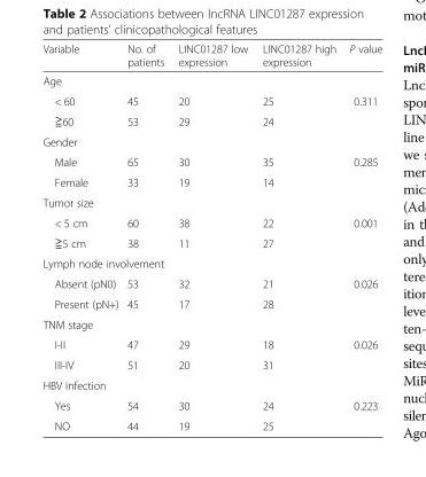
<table><thead><tr><td>Variable</td><td>No. of patients</td><td>LINC01287 low expression</td><td>LINC01287 high expression</td><td>P value</td></tr></thead><tbody><tr><td colspan="5">Age</td></tr><tr><td>&lt; 60</td><td>45</td><td>20</td><td>25</td><td>0.311</td></tr><tr><td>≧60</td><td>53</td><td>29</td><td>24</td><td></td></tr><tr><td colspan="5">Gender</td></tr><tr><td>Male</td><td>65</td><td>30</td><td>35</td><td>0.285</td></tr><tr><td>Female</td><td>33</td><td>19</td><td>14</td><td></td></tr><tr><td colspan="5">Tumor size</td></tr><tr><td>&lt; 5 cm</td><td>60</td><td>38</td><td>22</td><td>0.001</td></tr><tr><td>≧5 cm</td><td>38</td><td>11</td><td>27</td><td></td></tr><tr><td colspan="5">Lymph node involvement</td></tr><tr><td>Absent (pN0)</td><td>53</td><td>32</td><td>21</td><td>0.026</td></tr><tr><td>Present (pN+)</td><td>45</td><td>17</td><td>28</td><td></td></tr><tr><td colspan="5">TNM stage</td></tr><tr><td>I-II</td><td>47</td><td>29</td><td>18</td><td>0.026</td></tr><tr><td>III-IV</td><td>51</td><td>20</td><td>31</td><td></td></tr><tr><td colspan="5">HBV infection</td></tr><tr><td>Yes</td><td>54</td><td>30</td><td>24</td><td>0.223</td></tr><tr><td>NO</td><td>44</td><td>19</td><td>25</td><td></td></tr></tbody></table>